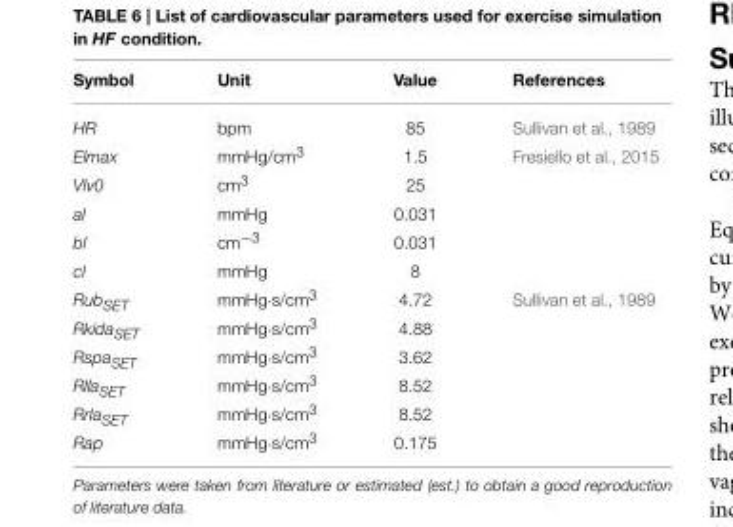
<table><thead><tr><td>Symbol</td><td>Unit</td><td>Value</td><td>References</td></tr></thead><tbody><tr><td>HR</td><td>bpm</td><td>85</td><td>Sullivan et al., 1989</td></tr><tr><td>Elmax</td><td>mmHg/cm<sup>3</sup></td><td>1.5</td><td>Fresiello et al., 2015</td></tr><tr><td>Vlv0</td><td>cm<sup>3</sup></td><td>25</td><td></td></tr><tr><td>al</td><td>mmHg</td><td>0.031</td><td></td></tr><tr><td>bl</td><td>cm<sup>−3</sup></td><td>0.031</td><td></td></tr><tr><td>cl</td><td>mmHg</td><td>8</td><td></td></tr><tr><td>RubSET</td><td>mmHg·s/cm<sup>3</sup></td><td>4.72</td><td>Sullivan et al., 1989</td></tr><tr><td>RkidaSET</td><td>mmHg·s/cm<sup>3</sup></td><td>4.88</td><td></td></tr><tr><td>RspaSET</td><td>mmHg·s/cm<sup>3</sup></td><td>3.62</td><td></td></tr><tr><td>RllaSET</td><td>mmHg·s/cm<sup>3</sup></td><td>8.52</td><td></td></tr><tr><td>RrlaSET</td><td>mmHg·s/cm<sup>3</sup></td><td>8.52</td><td></td></tr><tr><td>Rap</td><td>mmHg·s/cm<sup>3</sup></td><td>0.175</td><td></td></tr></tbody></table>